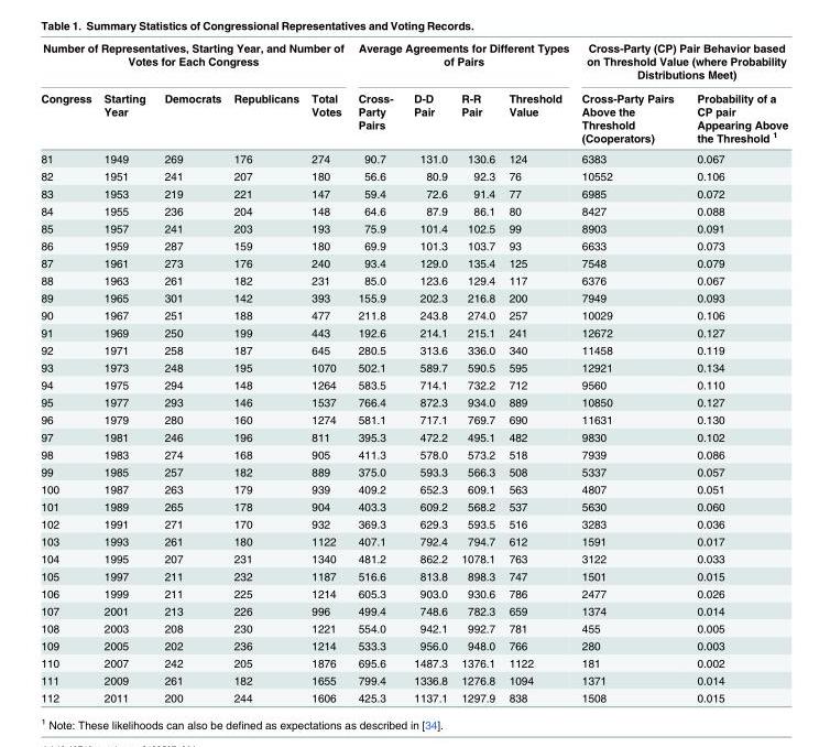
<table><thead><tr><td colspan="5">Number of Representatives, Starting Year, and Number of Votes for Each Congress</td><td colspan="4">Average Agreements for Different Types of Pairs</td><td colspan="2">Cross-Party (CP) Pair Behavior based on Threshold Value (where Probability Distributions Meet)</td></tr><tr><td>Congress</td><td>Starting Year</td><td>Democrats</td><td>Republicans</td><td>Total Votes</td><td>Cross- Party Pairs</td><td>D-D Pair</td><td>R-R Pair</td><td>Threshold Value</td><td>Cross-Party Pairs Above the Threshold (Cooperators)</td><td>Probability of a CP pair Appearing Above the Threshold <sup>1</sup></td></tr></thead><tbody><tr><td>81</td><td>1949</td><td>269</td><td>176</td><td>274</td><td>90.7</td><td>131.0</td><td>130.6</td><td>124</td><td>6383</td><td>0.067</td></tr><tr><td>82</td><td>1951</td><td>241</td><td>207</td><td>180</td><td>56.6</td><td>80.9</td><td>92.3</td><td>76</td><td>10552</td><td>0.106</td></tr><tr><td>83</td><td>1953</td><td>219</td><td>221</td><td>147</td><td>59.4</td><td>72.6</td><td>91.4</td><td>77</td><td>6985</td><td>0.072</td></tr><tr><td>84</td><td>1955</td><td>236</td><td>204</td><td>148</td><td>64.6</td><td>87.9</td><td>86.1</td><td>80</td><td>8427</td><td>0.088</td></tr><tr><td>85</td><td>1957</td><td>241</td><td>203</td><td>193</td><td>75.9</td><td>101.4</td><td>102.5</td><td>99</td><td>8903</td><td>0.091</td></tr><tr><td>86</td><td>1959</td><td>287</td><td>159</td><td>180</td><td>69.9</td><td>101.3</td><td>103.7</td><td>93</td><td>6633</td><td>0.073</td></tr><tr><td>87</td><td>1961</td><td>273</td><td>176</td><td>240</td><td>93.4</td><td>129.0</td><td>135.4</td><td>125</td><td>7548</td><td>0.079</td></tr><tr><td>88</td><td>1963</td><td>261</td><td>182</td><td>231</td><td>85.0</td><td>123.6</td><td>129.4</td><td>117</td><td>6376</td><td>0.067</td></tr><tr><td>89</td><td>1965</td><td>301</td><td>142</td><td>393</td><td>155.9</td><td>202.3</td><td>216.8</td><td>200</td><td>7949</td><td>0.093</td></tr><tr><td>90</td><td>1967</td><td>251</td><td>188</td><td>477</td><td>211.8</td><td>243.8</td><td>274.0</td><td>257</td><td>10029</td><td>0.106</td></tr><tr><td>91</td><td>1969</td><td>250</td><td>199</td><td>443</td><td>192.6</td><td>214.1</td><td>215.1</td><td>241</td><td>12672</td><td>0.127</td></tr><tr><td>92</td><td>1971</td><td>258</td><td>187</td><td>645</td><td>280.5</td><td>313.6</td><td>336.0</td><td>340</td><td>11458</td><td>0.119</td></tr><tr><td>93</td><td>1973</td><td>248</td><td>195</td><td>1070</td><td>502.1</td><td>589.7</td><td>590.5</td><td>595</td><td>12921</td><td>0.134</td></tr><tr><td>94</td><td>1975</td><td>294</td><td>148</td><td>1264</td><td>583.5</td><td>714.1</td><td>732.2</td><td>712</td><td>9560</td><td>0.110</td></tr><tr><td>95</td><td>1977</td><td>293</td><td>146</td><td>1537</td><td>766.4</td><td>872.3</td><td>934.0</td><td>889</td><td>10850</td><td>0.127</td></tr><tr><td>96</td><td>1979</td><td>280</td><td>160</td><td>1274</td><td>581.1</td><td>717.1</td><td>769.7</td><td>690</td><td>11631</td><td>0.130</td></tr><tr><td>97</td><td>1981</td><td>246</td><td>196</td><td>811</td><td>395.3</td><td>472.2</td><td>495.1</td><td>482</td><td>9830</td><td>0.102</td></tr><tr><td>98</td><td>1983</td><td>274</td><td>168</td><td>905</td><td>411.3</td><td>578.0</td><td>573.2</td><td>518</td><td>7939</td><td>0.086</td></tr><tr><td>99</td><td>1985</td><td>257</td><td>182</td><td>889</td><td>375.0</td><td>593.3</td><td>566.3</td><td>508</td><td>5337</td><td>0.057</td></tr><tr><td>100</td><td>1987</td><td>263</td><td>179</td><td>939</td><td>409.2</td><td>652.3</td><td>609.1</td><td>563</td><td>4807</td><td>0.051</td></tr><tr><td>101</td><td>1989</td><td>265</td><td>178</td><td>904</td><td>403.3</td><td>609.2</td><td>568.2</td><td>537</td><td>5630</td><td>0.060</td></tr><tr><td>102</td><td>1991</td><td>271</td><td>170</td><td>932</td><td>369.3</td><td>629.3</td><td>593.5</td><td>516</td><td>3283</td><td>0.036</td></tr><tr><td>103</td><td>1993</td><td>261</td><td>180</td><td>1122</td><td>407.1</td><td>792.4</td><td>794.7</td><td>612</td><td>1591</td><td>0.017</td></tr><tr><td>104</td><td>1995</td><td>207</td><td>231</td><td>1340</td><td>481.2</td><td>862.2</td><td>1078.1</td><td>763</td><td>3122</td><td>0.033</td></tr><tr><td>105</td><td>1997</td><td>211</td><td>232</td><td>1187</td><td>516.6</td><td>813.8</td><td>898.3</td><td>747</td><td>1501</td><td>0.015</td></tr><tr><td>106</td><td>1999</td><td>211</td><td>225</td><td>1214</td><td>605.3</td><td>903.0</td><td>930.6</td><td>786</td><td>2477</td><td>0.026</td></tr><tr><td>107</td><td>2001</td><td>213</td><td>226</td><td>996</td><td>499.4</td><td>748.6</td><td>782.3</td><td>659</td><td>1374</td><td>0.014</td></tr><tr><td>108</td><td>2003</td><td>208</td><td>230</td><td>1221</td><td>554.0</td><td>942.1</td><td>992.7</td><td>781</td><td>455</td><td>0.005</td></tr><tr><td>109</td><td>2005</td><td>202</td><td>236</td><td>1214</td><td>533.3</td><td>956.0</td><td>948.0</td><td>766</td><td>280</td><td>0.003</td></tr><tr><td>110</td><td>2007</td><td>242</td><td>205</td><td>1876</td><td>695.6</td><td>1487.3</td><td>1376.1</td><td>1122</td><td>181</td><td>0.002</td></tr><tr><td>111</td><td>2009</td><td>261</td><td>182</td><td>1655</td><td>799.4</td><td>1336.8</td><td>1276.8</td><td>1094</td><td>1371</td><td>0.014</td></tr><tr><td>112</td><td>2011</td><td>200</td><td>244</td><td>1606</td><td>425.3</td><td>1137.1</td><td>1297.9</td><td>838</td><td>1508</td><td>0.015</td></tr></tbody></table>